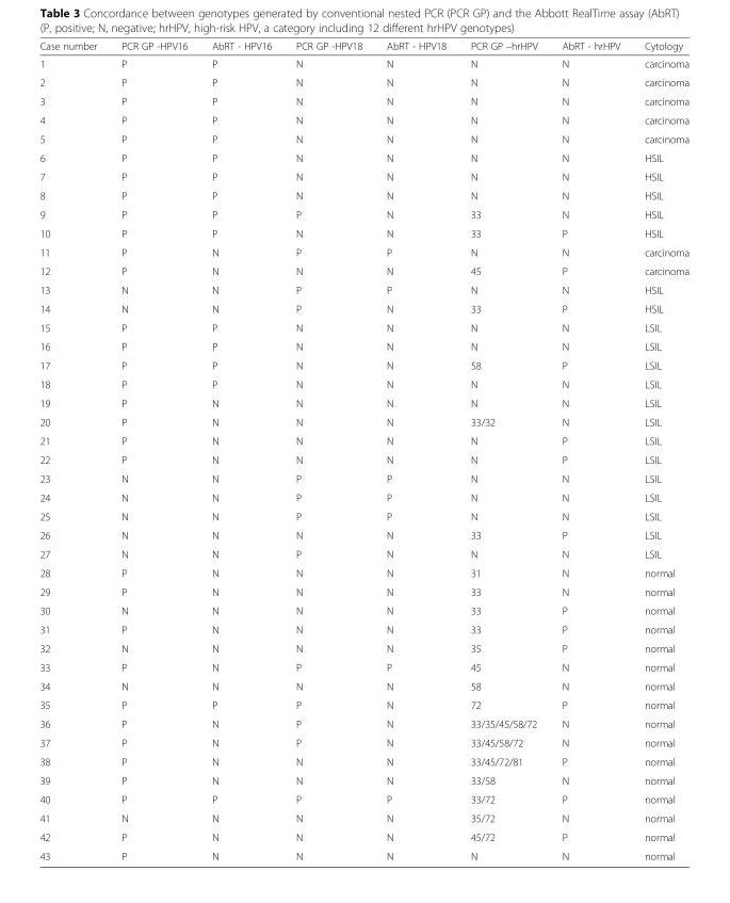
<table><thead><tr><td>Case number</td><td>PCR GP -HPV16</td><td>AbRT - HPV16</td><td>PCR GP -HPV18</td><td>AbRT - HPV18</td><td>PCR GP –hrHPV</td><td>AbRT - hrHPV</td><td>Cytology</td></tr></thead><tbody><tr><td>1</td><td>P</td><td>P</td><td>N</td><td>N</td><td>N</td><td>N</td><td>carcinoma</td></tr><tr><td>2</td><td>P</td><td>P</td><td>N</td><td>N</td><td>N</td><td>N</td><td>carcinoma</td></tr><tr><td>3</td><td>P</td><td>P</td><td>N</td><td>N</td><td>N</td><td>N</td><td>carcinoma</td></tr><tr><td>4</td><td>P</td><td>P</td><td>N</td><td>N</td><td>N</td><td>N</td><td>carcinoma</td></tr><tr><td>5</td><td>P</td><td>P</td><td>N</td><td>N</td><td>N</td><td>N</td><td>carcinoma</td></tr><tr><td>6</td><td>P</td><td>P</td><td>N</td><td>N</td><td>N</td><td>N</td><td>HSIL</td></tr><tr><td>7</td><td>P</td><td>P</td><td>N</td><td>N</td><td>N</td><td>N</td><td>HSIL</td></tr><tr><td>8</td><td>P</td><td>P</td><td>N</td><td>N</td><td>N</td><td>N</td><td>HSIL</td></tr><tr><td>9</td><td>P</td><td>P</td><td>P</td><td>N</td><td>33</td><td>N</td><td>HSIL</td></tr><tr><td>10</td><td>P</td><td>P</td><td>N</td><td>N</td><td>33</td><td>P</td><td>HSIL</td></tr><tr><td>11</td><td>P</td><td>N</td><td>P</td><td>P</td><td>N</td><td>N</td><td>carcinoma</td></tr><tr><td>12</td><td>P</td><td>N</td><td>N</td><td>N</td><td>45</td><td>P</td><td>carcinoma</td></tr><tr><td>13</td><td>N</td><td>N</td><td>P</td><td>P</td><td>N</td><td>N</td><td>HSIL</td></tr><tr><td>14</td><td>N</td><td>N</td><td>P</td><td>N</td><td>33</td><td>P</td><td>HSIL</td></tr><tr><td>15</td><td>P</td><td>P</td><td>N</td><td>N</td><td>N</td><td>N</td><td>LSIL</td></tr><tr><td>16</td><td>P</td><td>P</td><td>N</td><td>N</td><td>N</td><td>N</td><td>LSIL</td></tr><tr><td>17</td><td>P</td><td>P</td><td>N</td><td>N</td><td>58</td><td>P</td><td>LSIL</td></tr><tr><td>18</td><td>P</td><td>P</td><td>N</td><td>N</td><td>N</td><td>N</td><td>LSIL</td></tr><tr><td>19</td><td>P</td><td>N</td><td>N</td><td>N</td><td>N</td><td>N</td><td>LSIL</td></tr><tr><td>20</td><td>P</td><td>N</td><td>N</td><td>N</td><td>33/32</td><td>N</td><td>LSIL</td></tr><tr><td>21</td><td>P</td><td>N</td><td>N</td><td>N</td><td>N</td><td>P</td><td>LSIL</td></tr><tr><td>22</td><td>P</td><td>N</td><td>N</td><td>N</td><td>N</td><td>P</td><td>LSIL</td></tr><tr><td>23</td><td>N</td><td>N</td><td>P</td><td>P</td><td>N</td><td>N</td><td>LSIL</td></tr><tr><td>24</td><td>N</td><td>N</td><td>P</td><td>P</td><td>N</td><td>N</td><td>LSIL</td></tr><tr><td>25</td><td>N</td><td>N</td><td>P</td><td>P</td><td>N</td><td>N</td><td>LSIL</td></tr><tr><td>26</td><td>N</td><td>N</td><td>N</td><td>N</td><td>33</td><td>P</td><td>LSIL</td></tr><tr><td>27</td><td>N</td><td>N</td><td>P</td><td>N</td><td>N</td><td>N</td><td>LSIL</td></tr><tr><td>28</td><td>P</td><td>N</td><td>N</td><td>N</td><td>31</td><td>N</td><td>normal</td></tr><tr><td>29</td><td>P</td><td>N</td><td>N</td><td>N</td><td>33</td><td>N</td><td>normal</td></tr><tr><td>30</td><td>N</td><td>N</td><td>N</td><td>N</td><td>33</td><td>P</td><td>normal</td></tr><tr><td>31</td><td>P</td><td>N</td><td>N</td><td>N</td><td>33</td><td>P</td><td>normal</td></tr><tr><td>32</td><td>N</td><td>N</td><td>N</td><td>N</td><td>35</td><td>P</td><td>normal</td></tr><tr><td>33</td><td>P</td><td>N</td><td>P</td><td>P</td><td>45</td><td>N</td><td>normal</td></tr><tr><td>34</td><td>N</td><td>N</td><td>N</td><td>N</td><td>58</td><td>N</td><td>normal</td></tr><tr><td>35</td><td>P</td><td>P</td><td>P</td><td>N</td><td>72</td><td>P</td><td>normal</td></tr><tr><td>36</td><td>P</td><td>N</td><td>P</td><td>N</td><td>33/35/45/58/72</td><td>N</td><td>normal</td></tr><tr><td>37</td><td>P</td><td>N</td><td>P</td><td>N</td><td>33/45/58/72</td><td>N</td><td>normal</td></tr><tr><td>38</td><td>P</td><td>N</td><td>N</td><td>N</td><td>33/45/72/81</td><td>P</td><td>normal</td></tr><tr><td>39</td><td>P</td><td>N</td><td>N</td><td>N</td><td>33/58</td><td>N</td><td>normal</td></tr><tr><td>40</td><td>P</td><td>P</td><td>P</td><td>P</td><td>33/72</td><td>P</td><td>normal</td></tr><tr><td>41</td><td>N</td><td>N</td><td>N</td><td>N</td><td>35/72</td><td>N</td><td>normal</td></tr><tr><td>42</td><td>P</td><td>N</td><td>N</td><td>N</td><td>45/72</td><td>P</td><td>normal</td></tr><tr><td>43</td><td>P</td><td>N</td><td>N</td><td>N</td><td>N</td><td>N</td><td>normal</td></tr></tbody></table>